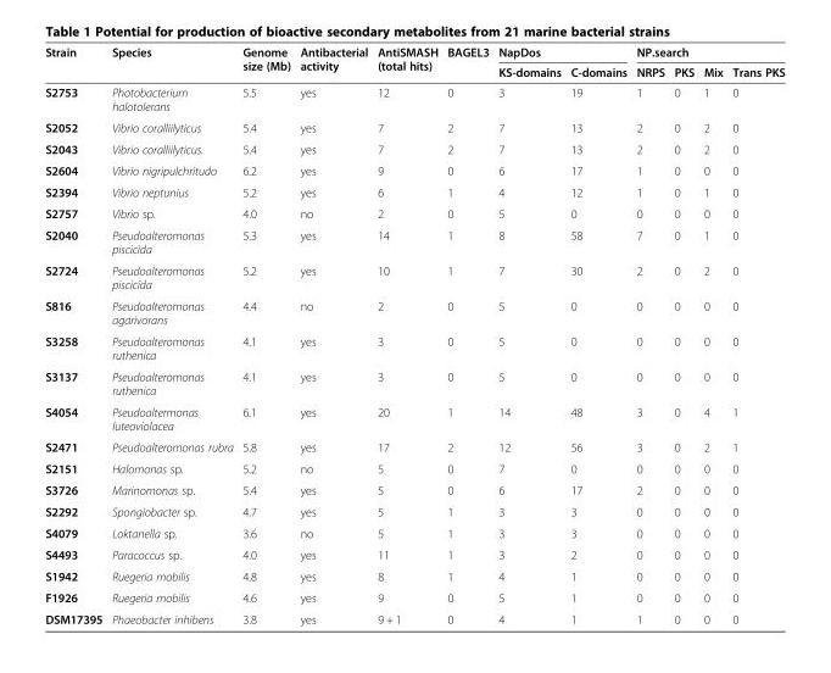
<table><thead><tr><td rowspan="2">Strain</td><td rowspan="2">Species</td><td rowspan="2">Genome size (Mb)</td><td rowspan="2">Antibacterial activity</td><td rowspan="2">AntiSMASH (total hits)</td><td rowspan="2">BAGEL3</td><td colspan="2">NapDos</td><td colspan="4">NP.search</td></tr><tr><td>KS-domains</td><td>C-domains</td><td>NRPS</td><td>PKS</td><td>Mix</td><td>Trans PKS</td></tr></thead><tbody><tr><td>S2753</td><td>Photobacterium halotolerans</td><td>5.5</td><td>yes</td><td>12</td><td>0</td><td>3</td><td>19</td><td>1</td><td>0</td><td>1</td><td>0</td></tr><tr><td>S2052</td><td>Vibrio coralliilyticus</td><td>5.4</td><td>yes</td><td>7</td><td>2</td><td>7</td><td>13</td><td>2</td><td>0</td><td>2</td><td>0</td></tr><tr><td>S2043</td><td>Vibrio coralliilyticus.</td><td>5.4</td><td>yes</td><td>7</td><td>2</td><td>7</td><td>13</td><td>2</td><td>0</td><td>2</td><td>0</td></tr><tr><td>S2604</td><td>Vibrio nigripulchritudo</td><td>6.2</td><td>yes</td><td>9</td><td>0</td><td>6</td><td>17</td><td>1</td><td>0</td><td>0</td><td>0</td></tr><tr><td>S2394</td><td>Vibrio neptunius</td><td>5.2</td><td>yes</td><td>6</td><td>1</td><td>4</td><td>12</td><td>1</td><td>0</td><td>1</td><td>0</td></tr><tr><td>S2757</td><td>Vibrio sp.</td><td>4.0</td><td>no</td><td>2</td><td>0</td><td>5</td><td>0</td><td>0</td><td>0</td><td>0</td><td>0</td></tr><tr><td>S2040</td><td>Pseudoalteromonas piscicida</td><td>5.3</td><td>yes</td><td>14</td><td>1</td><td>8</td><td>58</td><td>7</td><td>0</td><td>1</td><td>0</td></tr><tr><td>S2724</td><td>Pseudoalteromonas piscicida</td><td>5.2</td><td>yes</td><td>10</td><td>1</td><td>7</td><td>30</td><td>2</td><td>0</td><td>2</td><td>0</td></tr><tr><td>S816</td><td>Pseudoalteromonas agarivorans</td><td>4.4</td><td>no</td><td>2</td><td>0</td><td>5</td><td>0</td><td>0</td><td>0</td><td>0</td><td>0</td></tr><tr><td>S3258</td><td>Pseudoalteromonas ruthenica</td><td>4.1</td><td>yes</td><td>3</td><td>0</td><td>5</td><td>0</td><td>0</td><td>0</td><td>0</td><td>0</td></tr><tr><td>S3137</td><td>Pseudoalteromonas ruthenica</td><td>4.1</td><td>yes</td><td>3</td><td>0</td><td>5</td><td>0</td><td>0</td><td>0</td><td>0</td><td>0</td></tr><tr><td>S4054</td><td>Pseudoaltermonas luteoviolacea</td><td>6.1</td><td>yes</td><td>20</td><td>1</td><td>14</td><td>48</td><td>3</td><td>0</td><td>4</td><td>1</td></tr><tr><td>S2471</td><td>Pseudoalteromonas rubra</td><td>5.8</td><td>yes</td><td>17</td><td>2</td><td>12</td><td>56</td><td>3</td><td>0</td><td>2</td><td>1</td></tr><tr><td>S2151</td><td>Halomonas sp.</td><td>5.2</td><td>no</td><td>5</td><td>0</td><td>7</td><td>0</td><td>0</td><td>0</td><td>0</td><td>0</td></tr><tr><td>S3726</td><td>Marinomonas sp.</td><td>5.4</td><td>yes</td><td>5</td><td>0</td><td>6</td><td>17</td><td>2</td><td>0</td><td>0</td><td>0</td></tr><tr><td>S2292</td><td>Spongiobacter sp.</td><td>4.7</td><td>yes</td><td>5</td><td>1</td><td>3</td><td>3</td><td>0</td><td>0</td><td>0</td><td>0</td></tr><tr><td>S4079</td><td>Loktanella sp.</td><td>3.6</td><td>no</td><td>5</td><td>1</td><td>3</td><td>3</td><td>0</td><td>0</td><td>0</td><td>0</td></tr><tr><td>S4493</td><td>Paracoccus sp.</td><td>4.0</td><td>yes</td><td>11</td><td>1</td><td>3</td><td>2</td><td>0</td><td>0</td><td>0</td><td>0</td></tr><tr><td>S1942</td><td>Ruegeria mobilis</td><td>4.8</td><td>yes</td><td>8</td><td>1</td><td>4</td><td>1</td><td>0</td><td>0</td><td>0</td><td>0</td></tr><tr><td>F1926</td><td>Ruegeria mobilis</td><td>4.6</td><td>yes</td><td>9</td><td>0</td><td>5</td><td>1</td><td>0</td><td>0</td><td>0</td><td>0</td></tr><tr><td>DSM17395</td><td>Phaeobacter inhibens</td><td>3.8</td><td>yes</td><td>9 + 1</td><td>0</td><td>4</td><td>1</td><td>1</td><td>0</td><td>0</td><td>0</td></tr></tbody></table>